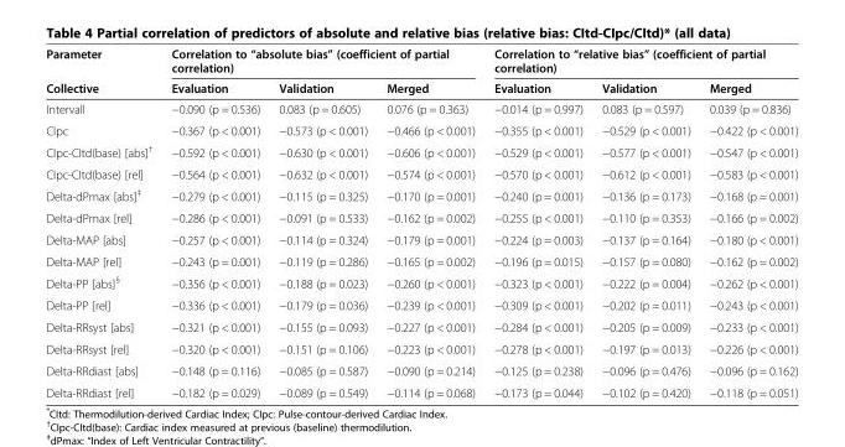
<table><thead><tr><td rowspan="2">Parameter Collective</td><td colspan="3">Correlation to “absolute bias” (coefficient of partial correlation)</td><td colspan="3">Correlation to “relative bias” (coefficient of partial correlation)</td></tr><tr><td>Evaluation</td><td>Validation</td><td>Merged</td><td>Evaluation</td><td>Validation</td><td>Merged</td></tr></thead><tbody><tr><td>Intervall</td><td>−0.090 (p = 0.536)</td><td>0.083 (p = 0.605)</td><td>0.076 (p = 0.363)</td><td>−0.014 (p = 0.997)</td><td>0.083 (p = 0.597)</td><td>0.039 (p = 0.836)</td></tr><tr><td>CIpc</td><td>−0.367 (p &lt; 0.001)</td><td>−0.573 (p &lt; 0.001)</td><td>−0.466 (p &lt; 0.001)</td><td>−0.355 (p &lt; 0.001)</td><td>−0.529 (p &lt; 0.001)</td><td>−0.422 (p &lt; 0.001)</td></tr><tr><td>CIpc-CItd(base) [abs]<sup>†</sup></td><td>−0.592 (p &lt; 0.001)</td><td>−0.630 (p &lt; 0.001)</td><td>−0.606 (p &lt; 0.001)</td><td>−0.529 (p &lt; 0.001)</td><td>−0.577 (p &lt; 0.001)</td><td>−0.547 (p &lt; 0.001)</td></tr><tr><td>CIpc-CItd(base) [rel]</td><td>−0.564 (p &lt; 0.001)</td><td>−0.632 (p &lt; 0.001)</td><td>−0.574 (p &lt; 0.001)</td><td>−0.570 (p &lt; 0.001)</td><td>−0.612 (p &lt; 0.001)</td><td>−0.583 (p &lt; 0.001)</td></tr><tr><td>Delta-dPmax [abs]<sup>‡</sup></td><td>−0.279 (p &lt; 0.001)</td><td>−0.115 (p = 0.325)</td><td>−0.170 (p = 0.001)</td><td>−0.240 (p = 0.001)</td><td>−0.136 (p = 0.173)</td><td>−0.168 (p = 0.001)</td></tr><tr><td>Delta-dPmax [rel]</td><td>−0.286 (p &lt; 0.001)</td><td>−0.091 (p = 0.533)</td><td>−0.162 (p = 0.002)</td><td>−0.255 (p &lt; 0.001)</td><td>−0.110 (p = 0.353)</td><td>−0.166 (p = 0.002)</td></tr><tr><td>Delta-MAP [abs]</td><td>−0.257 (p &lt; 0.001)</td><td>−0.114 (p = 0.324)</td><td>−0.179 (p = 0.001)</td><td>−0.224 (p = 0.003)</td><td>−0.137 (p = 0.164)</td><td>−0.180 (p &lt; 0.001)</td></tr><tr><td>Delta-MAP [rel]</td><td>−0.243 (p = 0.001)</td><td>−0.119 (p = 0.286)</td><td>−0.165 (p = 0.002)</td><td>−0.196 (p = 0.015)</td><td>−0.157 (p = 0.080)</td><td>−0.162 (p = 0.002)</td></tr><tr><td>Delta-PP [abs]<sup>§</sup></td><td>−0.356 (p &lt; 0.001)</td><td>−0.188 (p = 0.023)</td><td>−0.260 (p &lt; 0.001)</td><td>−0.323 (p &lt; 0.001)</td><td>−0.222 (p = 0.004)</td><td>−0.262 (p &lt; 0.001)</td></tr><tr><td>Delta-PP [rel]</td><td>−0.336 (p &lt; 0.001)</td><td>−0.179 (p = 0.036)</td><td>−0.239 (p &lt; 0.001)</td><td>−0.309 (p &lt; 0.001)</td><td>−0.202 (p = 0.011)</td><td>−0.243 (p &lt; 0.001)</td></tr><tr><td>Delta-RRsyst [abs]</td><td>−0.321 (p &lt; 0.001)</td><td>−0.155 (p = 0.093)</td><td>−0.227 (p &lt; 0.001)</td><td>−0.284 (p &lt; 0.001)</td><td>−0.205 (p = 0.009)</td><td>−0.233 (p &lt; 0.001)</td></tr><tr><td>Delta-RRsyst [rel]</td><td>−0.320 (p &lt; 0.001)</td><td>−0.151 (p = 0.106)</td><td>−0.223 (p &lt; 0.001)</td><td>−0.278 (p &lt; 0.001)</td><td>−0.197 (p = 0.013)</td><td>−0.226 (p &lt; 0.001)</td></tr><tr><td>Delta-RRdiast [abs]</td><td>−0.148 (p = 0.116)</td><td>−0.085 (p = 0.587)</td><td>−0.090 (p = 0.214)</td><td>−0.125 (p = 0.238)</td><td>−0.096 (p = 0.476)</td><td>−0.096 (p = 0.162)</td></tr><tr><td>Delta-RRdiast [rel]</td><td>−0.182 (p = 0.029)</td><td>−0.089 (p = 0.549)</td><td>−0.114 (p = 0.068)</td><td>−0.173 (p = 0.044)</td><td>−0.102 (p = 0.420)</td><td>−0.118 (p = 0.051)</td></tr></tbody></table>